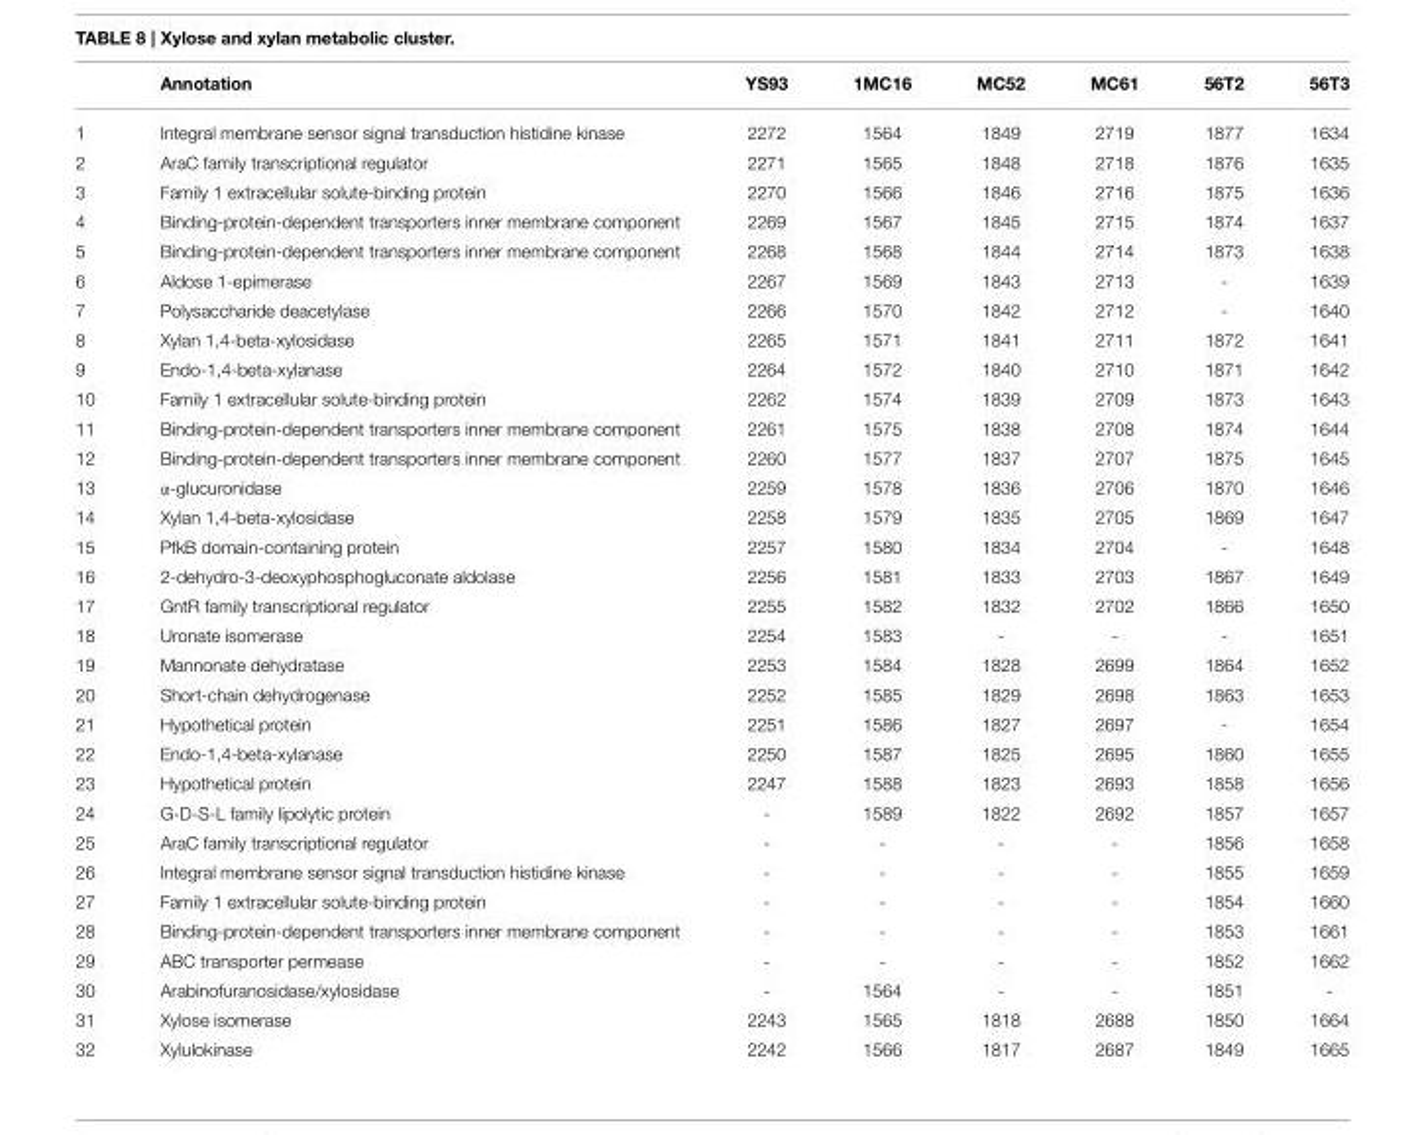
<table><thead><tr><td></td><td>Annotation</td><td>YS93</td><td>1MC16</td><td>MC52</td><td>MC61</td><td>56T2</td><td>56T3</td></tr></thead><tbody><tr><td>1</td><td>Integral membrane sensor signal transduction histidine kinase</td><td>2272</td><td>1564</td><td>1849</td><td>2719</td><td>1877</td><td>1634</td></tr><tr><td>2</td><td>AraC family transcriptional regulator</td><td>2271</td><td>1565</td><td>1848</td><td>2718</td><td>1876</td><td>1635</td></tr><tr><td>3</td><td>Family 1 extracellular solute-binding protein</td><td>2270</td><td>1566</td><td>1846</td><td>2716</td><td>1875</td><td>1636</td></tr><tr><td>4</td><td>Binding-protein-dependent transporters inner membrane component</td><td>2269</td><td>1567</td><td>1845</td><td>2715</td><td>1874</td><td>1637</td></tr><tr><td>5</td><td>Binding-protein-dependent transporters inner membrane component</td><td>2268</td><td>1568</td><td>1844</td><td>2714</td><td>1873</td><td>1638</td></tr><tr><td>6</td><td>Aldose 1-epimerase</td><td>2267</td><td>1569</td><td>1843</td><td>2713</td><td>-</td><td>1639</td></tr><tr><td>7</td><td>Polysaccharide deacetylase</td><td>2266</td><td>1570</td><td>1842</td><td>2712</td><td>-</td><td>1640</td></tr><tr><td>8</td><td>Xylan 1,4-beta-xylosidase</td><td>2265</td><td>1571</td><td>1841</td><td>2711</td><td>1872</td><td>1641</td></tr><tr><td>9</td><td>Endo-1,4-beta-xylanase</td><td>2264</td><td>1572</td><td>1840</td><td>2710</td><td>1871</td><td>1642</td></tr><tr><td>10</td><td>Family 1 extracellular solute-binding protein</td><td>2262</td><td>1574</td><td>1839</td><td>2709</td><td>1873</td><td>1643</td></tr><tr><td>11</td><td>Binding-protein-dependent transporters inner membrane component</td><td>2261</td><td>1575</td><td>1838</td><td>2708</td><td>1874</td><td>1644</td></tr><tr><td>12</td><td>Binding-protein-dependent transporters inner membrane component</td><td>2260</td><td>1577</td><td>1837</td><td>2707</td><td>1875</td><td>1645</td></tr><tr><td>13</td><td>α-glucuronidase</td><td>2259</td><td>1578</td><td>1836</td><td>2706</td><td>1870</td><td>1646</td></tr><tr><td>14</td><td>Xylan 1,4-beta-xylosidase</td><td>2258</td><td>1579</td><td>1835</td><td>2705</td><td>1869</td><td>1647</td></tr><tr><td>15</td><td>PfkB domain-containing protein</td><td>2257</td><td>1580</td><td>1834</td><td>2704</td><td>-</td><td>1648</td></tr><tr><td>16</td><td>2-dehydro-3-deoxyphosphogluconate aldolase</td><td>2256</td><td>1581</td><td>1833</td><td>2703</td><td>1867</td><td>1649</td></tr><tr><td>17</td><td>GntR family transcriptional regulator</td><td>2255</td><td>1582</td><td>1832</td><td>2702</td><td>1866</td><td>1650</td></tr><tr><td>18</td><td>Uronate isomerase</td><td>2254</td><td>1583</td><td>-</td><td>-</td><td>-</td><td>1651</td></tr><tr><td>19</td><td>Mannonate dehydratase</td><td>2253</td><td>1584</td><td>1828</td><td>2699</td><td>1864</td><td>1652</td></tr><tr><td>20</td><td>Short-chain dehydrogenase</td><td>2252</td><td>1585</td><td>1829</td><td>2698</td><td>1863</td><td>1653</td></tr><tr><td>21</td><td>Hypothetical protein</td><td>2251</td><td>1586</td><td>1827</td><td>2697</td><td>-</td><td>1654</td></tr><tr><td>22</td><td>Endo-1,4-beta-xylanase</td><td>2250</td><td>1587</td><td>1825</td><td>2695</td><td>1860</td><td>1655</td></tr><tr><td>23</td><td>Hypothetical protein</td><td>2247</td><td>1588</td><td>1823</td><td>2693</td><td>1858</td><td>1656</td></tr><tr><td>24</td><td>G-D-S-L family lipolytic protein</td><td>-</td><td>1589</td><td>1822</td><td>2692</td><td>1857</td><td>1657</td></tr><tr><td>25</td><td>AraC family transcriptional regulator</td><td>-</td><td>-</td><td>-</td><td>-</td><td>1856</td><td>1658</td></tr><tr><td>26</td><td>Integral membrane sensor signal transduction histidine kinase</td><td>-</td><td>-</td><td>-</td><td>-</td><td>1855</td><td>1659</td></tr><tr><td>27</td><td>Family 1 extracellular solute-binding protein</td><td>-</td><td>-</td><td>-</td><td>-</td><td>1854</td><td>1660</td></tr><tr><td>28</td><td>Binding-protein-dependent transporters inner membrane component</td><td>-</td><td>-</td><td>-</td><td>-</td><td>1853</td><td>1661</td></tr><tr><td>29</td><td>ABC transporter permease</td><td>-</td><td>-</td><td>-</td><td>-</td><td>1852</td><td>1662</td></tr><tr><td>30</td><td>Arabinofuranosidase/xylosidase</td><td>-</td><td>1564</td><td>-</td><td>-</td><td>1851</td><td>-</td></tr><tr><td>31</td><td>Xylose isomerase</td><td>2243</td><td>1565</td><td>1818</td><td>2688</td><td>1850</td><td>1664</td></tr><tr><td>32</td><td>Xylulokinase</td><td>2242</td><td>1566</td><td>1817</td><td>2687</td><td>1849</td><td>1665</td></tr></tbody></table>